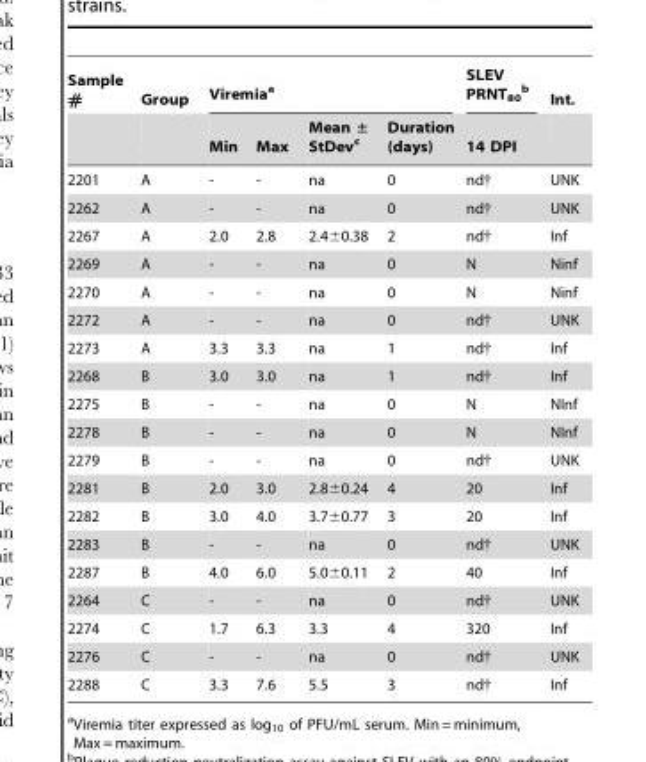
<table><thead><tr><td rowspan="2">Sample #</td><td rowspan="2">Group</td><td colspan="4">Viremia<sup>a</sup></td><td rowspan="2">SLEV PRNT<sub>80</sub> b 14 DPI</td><td rowspan="2">Int.</td></tr><tr><td>Min</td><td>Max</td><td>Mean ± StDev<sup>c</sup></td><td>Duration (days)</td></tr></thead><tbody><tr><td>2201</td><td>A</td><td>-</td><td>-</td><td>na</td><td>0</td><td>nd†</td><td>UNK</td></tr><tr><td>2262</td><td>A</td><td>-</td><td>-</td><td>na</td><td>0</td><td>nd†</td><td>UNK</td></tr><tr><td>2267</td><td>A</td><td>2.0</td><td>2.8</td><td>2.4±0.38</td><td>2</td><td>nd†</td><td>Inf</td></tr><tr><td>2269</td><td>A</td><td>-</td><td>-</td><td>na</td><td>0</td><td>N</td><td>Ninf</td></tr><tr><td>2270</td><td>A</td><td>-</td><td>-</td><td>na</td><td>0</td><td>N</td><td>Ninf</td></tr><tr><td>2272</td><td>A</td><td>-</td><td>-</td><td>na</td><td>0</td><td>nd†</td><td>UNK</td></tr><tr><td>2273</td><td>A</td><td>3.3</td><td>3.3</td><td>na</td><td>1</td><td>nd†</td><td>Inf</td></tr><tr><td>2268</td><td>B</td><td>3.0</td><td>3.0</td><td>na</td><td>1</td><td>nd†</td><td>Inf</td></tr><tr><td>2275</td><td>B</td><td>-</td><td>-</td><td>na</td><td>0</td><td>N</td><td>NInf</td></tr><tr><td>2278</td><td>B</td><td>-</td><td>-</td><td>na</td><td>0</td><td>N</td><td>NInf</td></tr><tr><td>2279</td><td>B</td><td>-</td><td>-</td><td>na</td><td>0</td><td>nd†</td><td>UNK</td></tr><tr><td>2281</td><td>B</td><td>2.0</td><td>3.0</td><td>2.8±0.24</td><td>4</td><td>20</td><td>Inf</td></tr><tr><td>2282</td><td>B</td><td>3.0</td><td>4.0</td><td>3.7±0.77</td><td>3</td><td>20</td><td>Inf</td></tr><tr><td>2283</td><td>B</td><td>-</td><td>-</td><td>na</td><td>0</td><td>nd†</td><td>UNK</td></tr><tr><td>2287</td><td>B</td><td>4.0</td><td>6.0</td><td>5.0±0.11</td><td>2</td><td>40</td><td>Inf</td></tr><tr><td>2264</td><td>C</td><td>-</td><td>-</td><td>na</td><td>0</td><td>nd†</td><td>UNK</td></tr><tr><td>2274</td><td>C</td><td>1.7</td><td>6.3</td><td>3.3</td><td>4</td><td>320</td><td>Inf</td></tr><tr><td>2276</td><td>C</td><td>-</td><td>-</td><td>na</td><td>0</td><td>nd†</td><td>UNK</td></tr><tr><td>2288</td><td>C</td><td>3.3</td><td>7.6</td><td>5.5</td><td>3</td><td>nd†</td><td>Inf</td></tr></tbody></table>